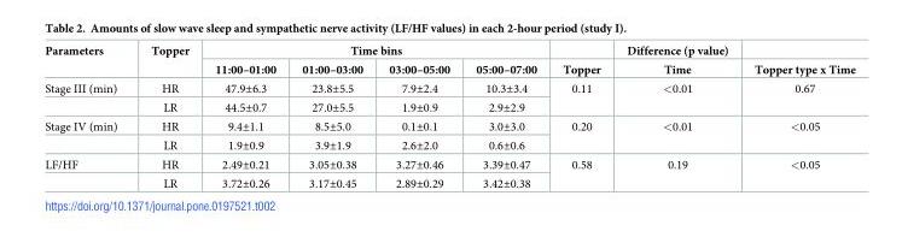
<table><thead><tr><td rowspan="2">Parameters</td><td rowspan="2">Topper</td><td colspan="4">Time bins</td><td rowspan="2">Topper</td><td rowspan="2">Difference (p value) Time</td><td rowspan="2">Topper type x Time</td></tr><tr><td>11:00–01:00</td><td>01:00–03:00</td><td>03:00–05:00</td><td>05:00–07:00</td></tr></thead><tbody><tr><td rowspan="2">Stage III (min)</td><td>HR</td><td>47.9±6.3</td><td>23.8±5.5</td><td>7.9±2.4</td><td>10.3±3.4</td><td rowspan="2">0.11</td><td rowspan="2">&lt;0.01</td><td rowspan="2">0.67</td></tr><tr><td>LR</td><td>44.5±0.7</td><td>27.0±5.5</td><td>1.9±0.9</td><td>2.9±2.9</td></tr><tr><td rowspan="2">Stage IV (min)</td><td>HR</td><td>9.4±1.1</td><td>8.5±5.0</td><td>0.1±0.1</td><td>3.0±3.0</td><td rowspan="2">0.20</td><td rowspan="2">&lt;0.01</td><td rowspan="2">&lt;0.05</td></tr><tr><td>LR</td><td>1.9±0.9</td><td>3.9±1.9</td><td>2.6±2.0</td><td>0.6±0.6</td></tr><tr><td rowspan="2">LF/HF</td><td>HR</td><td>2.49±0.21</td><td>3.05±0.38</td><td>3.27±0.46</td><td>3.39±0.47</td><td rowspan="2">0.58</td><td rowspan="2">0.19</td><td rowspan="2">&lt;0.05</td></tr><tr><td>LR</td><td>3.72±0.26</td><td>3.17±0.45</td><td>2.89±0.29</td><td>3.42±0.38</td></tr></tbody></table>